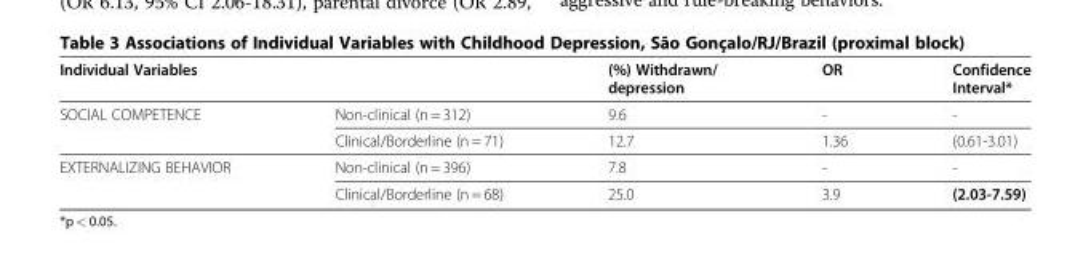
<table><thead><tr><td>Individual Variables</td><td></td><td>(%) Withdrawn/ depression</td><td>OR</td><td>Confidence Interval*</td></tr></thead><tbody><tr><td rowspan="2">SOCIAL COMPETENCE</td><td>Non-clinical (n = 312)</td><td>9.6</td><td>-</td><td>-</td></tr><tr><td>Clinical/Borderline (n = 71)</td><td>12.7</td><td>1.36</td><td>(0.61-3.01)</td></tr><tr><td rowspan="2">EXTERNALIZING BEHAVIOR</td><td>Non-clinical (n = 396)</td><td>7.8</td><td>-</td><td>-</td></tr><tr><td>Clinical/Borderline (n = 68)</td><td>25.0</td><td>3.9</td><td>(2.03-7.59)</td></tr></tbody></table>